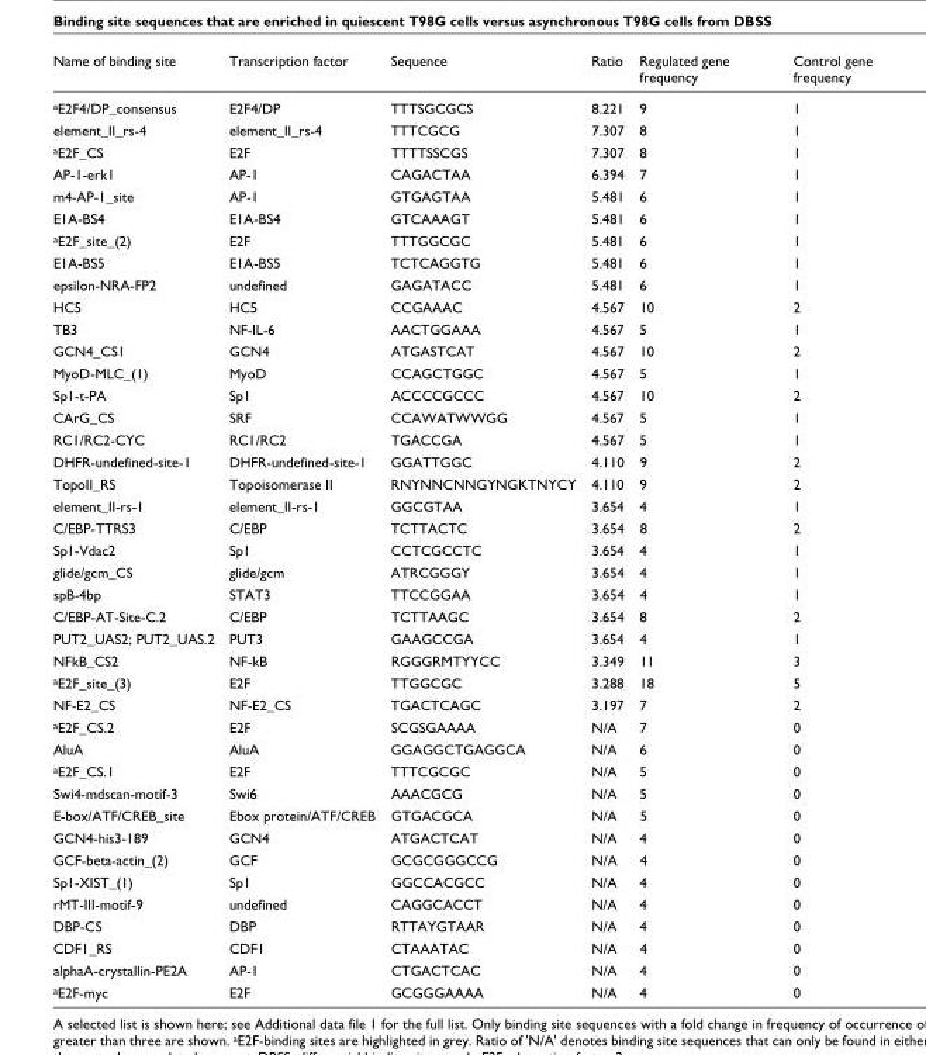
<table><thead><tr><td>Name of binding site</td><td>Transcription factor</td><td>Sequence</td><td>Ratio</td><td>Regulated gene frequency</td><td>Control gene frequency</td></tr></thead><tbody><tr><td>aE2F4/DP_consensus</td><td>E2F4/DP</td><td>TTTSGCGCS</td><td>8.221</td><td>9</td><td>1</td></tr><tr><td>element_II_rs-4</td><td>element_II_rs-4</td><td>TTTCGCG</td><td>7.307</td><td>8</td><td>1</td></tr><tr><td>aE2F_CS</td><td>E2F</td><td>TTTTSSCGS</td><td>7.307</td><td>8</td><td>1</td></tr><tr><td>AP-1-erk1</td><td>AP-1</td><td>CAGACTAA</td><td>6.394</td><td>7</td><td>1</td></tr><tr><td>m4-AP-1_site</td><td>AP-1</td><td>GTGAGTAA</td><td>5.481</td><td>6</td><td>1</td></tr><tr><td>E1A-BS4</td><td>E1A-BS4</td><td>GTCAAAGT</td><td>5.481</td><td>6</td><td>1</td></tr><tr><td>aE2F_site_(2)</td><td>E2F</td><td>TTTGGCGC</td><td>5.481</td><td>6</td><td>1</td></tr><tr><td>E1A-BS5</td><td>E1A-BS5</td><td>TCTCAGGTG</td><td>5.481</td><td>6</td><td>1</td></tr><tr><td>epsilon-NRA-FP2</td><td>undefined</td><td>GAGATACC</td><td>5.481</td><td>6</td><td>1</td></tr><tr><td>HC5</td><td>HC5</td><td>CCGAAAC</td><td>4.567</td><td>10</td><td>2</td></tr><tr><td>TB3</td><td>NF-IL-6</td><td>AACTGGAAA</td><td>4.567</td><td>5</td><td>1</td></tr><tr><td>GCN4_CS1</td><td>GCN4</td><td>ATGASTCAT</td><td>4.567</td><td>10</td><td>2</td></tr><tr><td>MyoD-MLC_(1)</td><td>MyoD</td><td>CCAGCTGGC</td><td>4.567</td><td>5</td><td>1</td></tr><tr><td>Sp1-t-PA</td><td>Sp1</td><td>ACCCCGCCC</td><td>4.567</td><td>10</td><td>2</td></tr><tr><td>CArG_CS</td><td>SRF</td><td>CCAWATWWGG</td><td>4.567</td><td>5</td><td>1</td></tr><tr><td>RC1/RC2-CYC</td><td>RC1/RC2</td><td>TGACCGA</td><td>4.567</td><td>5</td><td>1</td></tr><tr><td>DHFR-undefined-site-1</td><td>DHFR-undefined-site-1</td><td>GGATTGGC</td><td>4.110</td><td>9</td><td>2</td></tr><tr><td>TopoII_RS</td><td>Topoisomerase II</td><td>RNYNNCNNGYNGKTNYCY</td><td>4.110</td><td>9</td><td>2</td></tr><tr><td>element_II-rs-1</td><td>element_II-rs-1</td><td>GGCGTAA</td><td>3.654</td><td>4</td><td>1</td></tr><tr><td>C/EBP-TTRS3</td><td>C/EBP</td><td>TCTTACTC</td><td>3.654</td><td>8</td><td>2</td></tr><tr><td>Sp1-Vdac2</td><td>Sp1</td><td>CCTCGCCTC</td><td>3.654</td><td>4</td><td>1</td></tr><tr><td>glide/gcm_CS</td><td>glide/gcm</td><td>ATRCGGGY</td><td>3.654</td><td>4</td><td>1</td></tr><tr><td>spB-4bp</td><td>STAT3</td><td>TTCCGGAA</td><td>3.654</td><td>4</td><td>1</td></tr><tr><td>C/EBP-AT-Site-C.2</td><td>C/EBP</td><td>TCTTAAGC</td><td>3.654</td><td>8</td><td>2</td></tr><tr><td>PUT2_UAS2; PUT2_UAS.2</td><td>PUT3</td><td>GAAGCCGA</td><td>3.654</td><td>4</td><td>1</td></tr><tr><td>NFkB_CS2</td><td>NF-kB</td><td>RGGGRMTYYCC</td><td>3.349</td><td>11</td><td>3</td></tr><tr><td>aE2F_site_(3)</td><td>E2F</td><td>TTGGCGC</td><td>3.288</td><td>18</td><td>5</td></tr><tr><td>NF-E2_CS</td><td>NF-E2_CS</td><td>TGACTCAGC</td><td>3.197</td><td>7</td><td>2</td></tr><tr><td>aE2F_CS.2</td><td>E2F</td><td>SCGSGAAAA</td><td>N/A</td><td>7</td><td>0</td></tr><tr><td>AluA</td><td>AluA</td><td>GGAGGCTGAGGCA</td><td>N/A</td><td>6</td><td>0</td></tr><tr><td>aE2F_CS.1</td><td>E2F</td><td>TTTCGCGC</td><td>N/A</td><td>5</td><td>0</td></tr><tr><td>Swi4-mdscan-motif-3</td><td>Swi6</td><td>AAACGCG</td><td>N/A</td><td>5</td><td>0</td></tr><tr><td>E-box/ATF/CREB_site</td><td>Ebox protein/ATF/CREB</td><td>GTGACGCA</td><td>N/A</td><td>5</td><td>0</td></tr><tr><td>GCN4-his3-189</td><td>GCN4</td><td>ATGACTCAT</td><td>N/A</td><td>4</td><td>0</td></tr><tr><td>GCF-beta-actin_(2)</td><td>GCF</td><td>GCGCGGGCCG</td><td>N/A</td><td>4</td><td>0</td></tr><tr><td>Sp1-XIST_(1)</td><td>Sp1</td><td>GGCCACGCC</td><td>N/A</td><td>4</td><td>0</td></tr><tr><td>rMT-III-motif-9</td><td>undefined</td><td>CAGGCACCT</td><td>N/A</td><td>4</td><td>0</td></tr><tr><td>DBP-CS</td><td>DBP</td><td>RTTAYGTAAR</td><td>N/A</td><td>4</td><td>0</td></tr><tr><td>CDF1_RS</td><td>CDF1</td><td>CTAAATAC</td><td>N/A</td><td>4</td><td>0</td></tr><tr><td>alphaA-crystallin-PE2A</td><td>AP-1</td><td>CTGACTCAC</td><td>N/A</td><td>4</td><td>0</td></tr><tr><td>aE2F-myc</td><td>E2F</td><td>GCGGGAAAA</td><td>N/A</td><td>4</td><td>0</td></tr></tbody></table>